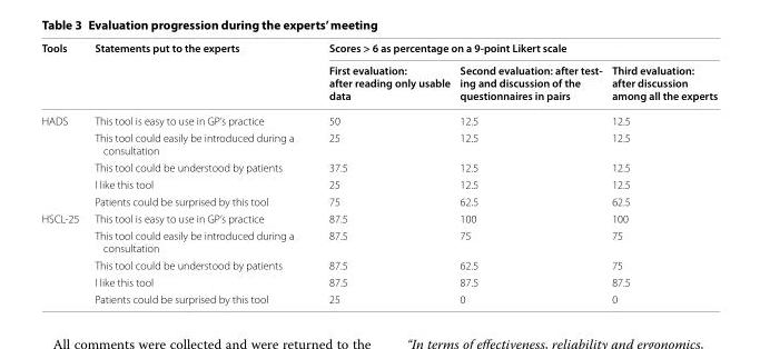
<table><thead><tr><td rowspan="2">Tools</td><td rowspan="2">Statements put to the experts</td><td colspan="3">Scores &gt; 6 as percentage on a 9-point Likert scale</td></tr><tr><td>First evaluation: after reading only usable data</td><td>Second evaluation: after test- ing and discussion of the questionnaires in pairs</td><td>Third evaluation: after discussion among all the experts</td></tr></thead><tbody><tr><td rowspan="5">HADS</td><td>This tool is easy to use in GP’s practice</td><td>50</td><td>12.5</td><td>12.5</td></tr><tr><td>This tool could easily be introduced during a consultation</td><td>25</td><td>12.5</td><td>12.5</td></tr><tr><td>This tool could be understood by patients</td><td>37.5</td><td>12.5</td><td>12.5</td></tr><tr><td>I like this tool</td><td>25</td><td>12.5</td><td>12.5</td></tr><tr><td>Patients could be surprised by this tool</td><td>75</td><td>62.5</td><td>62.5</td></tr><tr><td rowspan="5">HSCL‑25</td><td>This tool is easy to use in GP’s practice</td><td>87.5</td><td>100</td><td>100</td></tr><tr><td>This tool could easily be introduced during a consultation</td><td>87.5</td><td>75</td><td>75</td></tr><tr><td>This tool could be understood by patients</td><td>87.5</td><td>62.5</td><td>75</td></tr><tr><td>I like this tool</td><td>87.5</td><td>87.5</td><td>87.5</td></tr><tr><td>Patients could be surprised by this tool</td><td>25</td><td>0</td><td>0</td></tr></tbody></table>